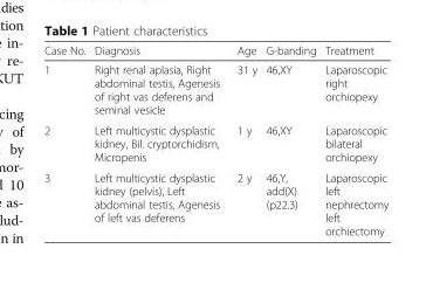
<table><thead><tr><td>Case No.</td><td>Diagnosis</td><td>Age</td><td>G-banding</td><td>Treatment</td></tr></thead><tbody><tr><td>1</td><td>Right renal aplasia, Right abdominal testis, Agenesis of right vas deferens and seminal vesicle</td><td>31 y</td><td>46,XY</td><td>Laparoscopic right orchiopexy</td></tr><tr><td>2</td><td>Left multicystic dysplastic kidney, Bil. cryptorchidism, Micropenis</td><td>1 y</td><td>46,XY</td><td>Laparoscopic bilateral orchiopexy</td></tr><tr><td>3</td><td>Left multicystic dysplastic kidney (pelvis), Left abdominal testis, Agenesis of left vas deferens</td><td>2 y</td><td>46,Y, add(X) (p22.3)</td><td>Laparoscopic left nephrectomy left orchiectomy</td></tr></tbody></table>